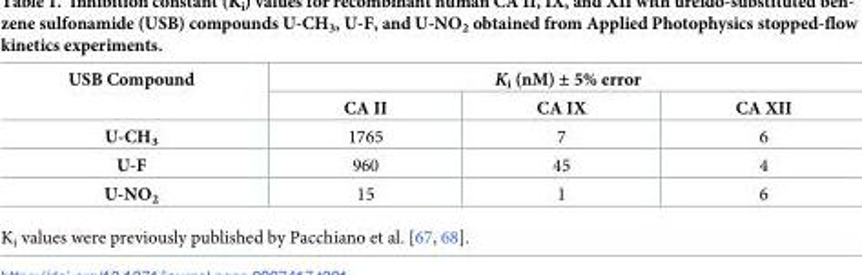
<table><thead><tr><td rowspan="2">USB Compound</td><td colspan="3">Ki (nM) ± 5% error</td></tr><tr><td>CA II</td><td>CA IX</td><td>CA XII</td></tr></thead><tbody><tr><td>U-CH3</td><td>1765</td><td>7</td><td>6</td></tr><tr><td>U-F</td><td>960</td><td>45</td><td>4</td></tr><tr><td>U-NO2</td><td>15</td><td>1</td><td>6</td></tr></tbody></table>